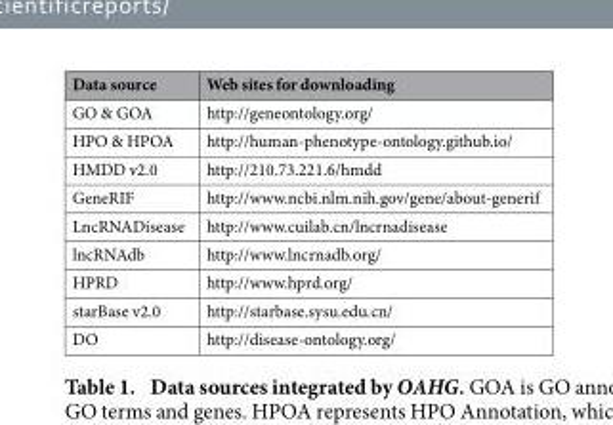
<table><thead><tr><td>Data source</td><td>Web sites for downloading</td></tr></thead><tbody><tr><td>GO &amp; GOA</td><td>http://geneontology.org/</td></tr><tr><td>HPO &amp; HPOA</td><td>http://human-phenotype-ontology.github.io/</td></tr><tr><td>HMDD v2.0</td><td>http://210.73.221.6/hmdd</td></tr><tr><td>GeneRIF</td><td>http://www.ncbi.nlm.nih.gov/gene/about-generif</td></tr><tr><td>LncRNADisease</td><td>http://www.cuilab.cn/lncrnadisease</td></tr><tr><td>lncRNAdb</td><td>http://www.lncrnadb.org/</td></tr><tr><td>HPRD</td><td>http://www.hprd.org/</td></tr><tr><td>starBase v2.0</td><td>http://starbase.sysu.edu.cn/</td></tr><tr><td>DO</td><td>http://disease-ontology.org/</td></tr></tbody></table>